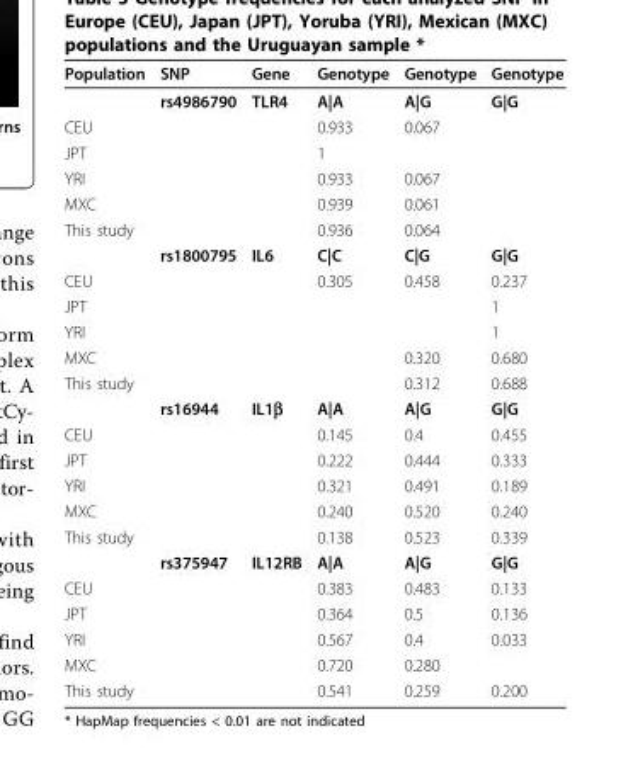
<table><thead><tr><td>Population</td><td>SNP</td><td>Gene</td><td>Genotype</td><td>Genotype</td><td>Genotype</td></tr></thead><tbody><tr><td></td><td>rs4986790</td><td>TLR4</td><td>A|A</td><td>A|G</td><td>G|G</td></tr><tr><td>CEU</td><td></td><td></td><td>0.933</td><td>0.067</td><td></td></tr><tr><td>JPT</td><td></td><td></td><td>1</td><td></td><td></td></tr><tr><td>YRI</td><td></td><td></td><td>0.933</td><td>0.067</td><td></td></tr><tr><td>MXC</td><td></td><td></td><td>0.939</td><td>0.061</td><td></td></tr><tr><td rowspan="2">This study</td><td></td><td></td><td>0.936</td><td>0.064</td><td></td></tr><tr><td>rs1800795</td><td>IL6</td><td>C|C</td><td>C|G</td><td>G|G</td></tr><tr><td>CEU</td><td></td><td></td><td>0.305</td><td>0.458</td><td>0.237</td></tr><tr><td>JPT</td><td></td><td></td><td></td><td></td><td>1</td></tr><tr><td>YRI</td><td></td><td></td><td></td><td></td><td>1</td></tr><tr><td>MXC</td><td></td><td></td><td></td><td>0.320</td><td>0.680</td></tr><tr><td rowspan="2">This study</td><td></td><td></td><td></td><td>0.312</td><td>0.688</td></tr><tr><td>rs16944</td><td>IL1β</td><td>A|A</td><td>A|G</td><td>G|G</td></tr><tr><td>CEU</td><td></td><td></td><td>0.145</td><td>0.4</td><td>0.455</td></tr><tr><td>JPT</td><td></td><td></td><td>0.222</td><td>0.444</td><td>0.333</td></tr><tr><td>YRI</td><td></td><td></td><td>0.321</td><td>0.491</td><td>0.189</td></tr><tr><td>MXC</td><td></td><td></td><td>0.240</td><td>0.520</td><td>0.240</td></tr><tr><td rowspan="2">This study</td><td></td><td></td><td>0.138</td><td>0.523</td><td>0.339</td></tr><tr><td>rs375947</td><td>IL12RB</td><td>A|A</td><td>A|G</td><td>G|G</td></tr><tr><td>CEU</td><td></td><td></td><td>0.383</td><td>0.483</td><td>0.133</td></tr><tr><td>JPT</td><td></td><td></td><td>0.364</td><td>0.5</td><td>0.136</td></tr><tr><td>YRI</td><td></td><td></td><td>0.567</td><td>0.4</td><td>0.033</td></tr><tr><td>MXC</td><td></td><td></td><td>0.720</td><td>0.280</td><td></td></tr><tr><td>This study</td><td></td><td></td><td>0.541</td><td>0.259</td><td>0.200</td></tr></tbody></table>